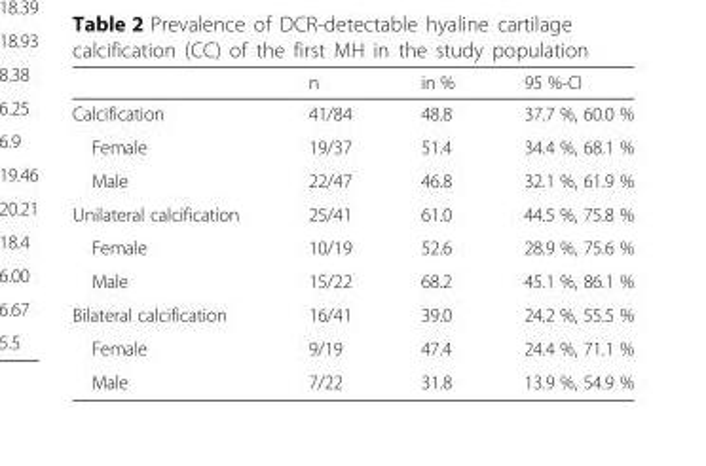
<table><thead><tr><td></td><td>n</td><td>in %</td><td>95 %-CI</td></tr></thead><tbody><tr><td>Calcification</td><td>41/84</td><td>48.8</td><td>37.7 %, 60.0 %</td></tr><tr><td>Female</td><td>19/37</td><td>51.4</td><td>34.4 %, 68.1 %</td></tr><tr><td>Male</td><td>22/47</td><td>46.8</td><td>32.1 %, 61.9 %</td></tr><tr><td>Unilateral calcification</td><td>25/41</td><td>61.0</td><td>44.5 %, 75.8 %</td></tr><tr><td>Female</td><td>10/19</td><td>52.6</td><td>28.9 %, 75.6 %</td></tr><tr><td>Male</td><td>15/22</td><td>68.2</td><td>45.1 %, 86.1 %</td></tr><tr><td>Bilateral calcification</td><td>16/41</td><td>39.0</td><td>24.2 %, 55.5 %</td></tr><tr><td>Female</td><td>9/19</td><td>47.4</td><td>24.4 %, 71.1 %</td></tr><tr><td>Male</td><td>7/22</td><td>31.8</td><td>13.9 %, 54.9 %</td></tr></tbody></table>